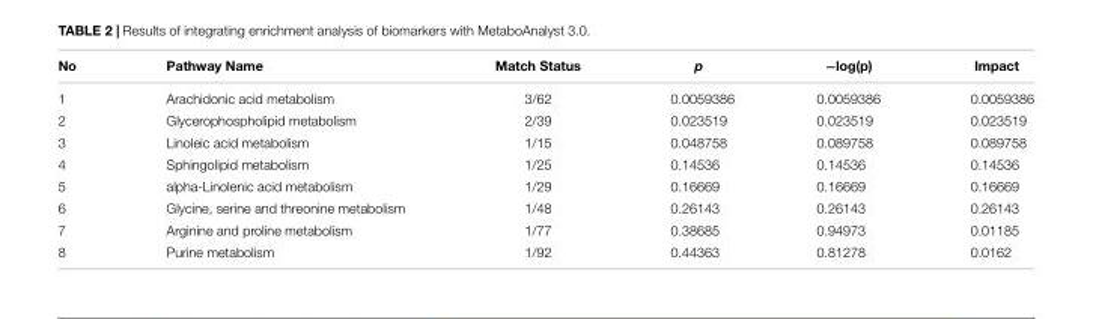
<table><thead><tr><td>No</td><td>Pathway Name</td><td>Match Status</td><td>p</td><td>−log(p)</td><td>Impact</td></tr></thead><tbody><tr><td>1</td><td>Arachidonic acid metabolism</td><td>3/62</td><td>0.0059386</td><td>0.0059386</td><td>0.0059386</td></tr><tr><td>2</td><td>Glycerophospholipid metabolism</td><td>2/39</td><td>0.023519</td><td>0.023519</td><td>0.023519</td></tr><tr><td>3</td><td>Linoleic acid metabolism</td><td>1/15</td><td>0.048758</td><td>0.089758</td><td>0.089758</td></tr><tr><td>4</td><td>Sphingolipid metabolism</td><td>1/25</td><td>0.14536</td><td>0.14536</td><td>0.14536</td></tr><tr><td>5</td><td>alpha-Linolenic acid metabolism</td><td>1/29</td><td>0.16669</td><td>0.16669</td><td>0.16669</td></tr><tr><td>6</td><td>Glycine, serine and threonine metabolism</td><td>1/48</td><td>0.26143</td><td>0.26143</td><td>0.26143</td></tr><tr><td>7</td><td>Arginine and proline metabolism</td><td>1/77</td><td>0.38685</td><td>0.94973</td><td>0.01185</td></tr><tr><td>8</td><td>Purine metabolism</td><td>1/92</td><td>0.44363</td><td>0.81278</td><td>0.0162</td></tr></tbody></table>